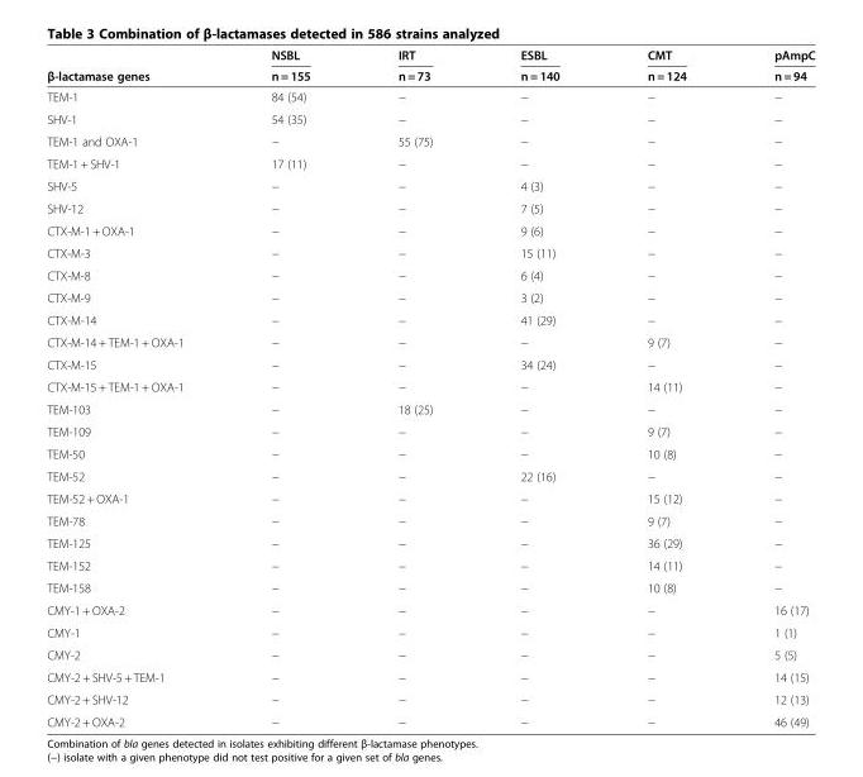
<table><thead><tr><td rowspan="2">β-lactamase genes</td><td rowspan="2">NSBL n = 155</td><td rowspan="2">IRT n = 73</td><td rowspan="2">ESBL n = 140</td><td rowspan="2">CMT n = 124</td><td rowspan="2">pAmpC n = 94</td></tr><tr></tr></thead><tbody><tr><td>TEM-1</td><td>84 (54)</td><td>−</td><td>−</td><td>−</td><td>−</td></tr><tr><td>SHV-1</td><td>54 (35)</td><td>−</td><td>−</td><td>−</td><td>−</td></tr><tr><td>TEM-1 and OXA-1</td><td>−</td><td>55 (75)</td><td>−</td><td>−</td><td>−</td></tr><tr><td>TEM-1 + SHV-1</td><td>17 (11)</td><td>−</td><td>−</td><td>−</td><td>−</td></tr><tr><td>SHV-5</td><td>−</td><td>−</td><td>4 (3)</td><td>−</td><td>−</td></tr><tr><td>SHV-12</td><td>−</td><td>−</td><td>7 (5)</td><td>−</td><td>−</td></tr><tr><td>CTX-M-1 + OXA-1</td><td>−</td><td>−</td><td>9 (6)</td><td>−</td><td>−</td></tr><tr><td>CTX-M-3</td><td>−</td><td>−</td><td>15 (11)</td><td>−</td><td>−</td></tr><tr><td>CTX-M-8</td><td>−</td><td>−</td><td>6 (4)</td><td>−</td><td>−</td></tr><tr><td>CTX-M-9</td><td>−</td><td>−</td><td>3 (2)</td><td>−</td><td>−</td></tr><tr><td>CTX-M-14</td><td>−</td><td>−</td><td>41 (29)</td><td>−</td><td>−</td></tr><tr><td>CTX-M-14 + TEM-1 + OXA-1</td><td>−</td><td>−</td><td>−</td><td>9 (7)</td><td>−</td></tr><tr><td>CTX-M-15</td><td>−</td><td>−</td><td>34 (24)</td><td>−</td><td>−</td></tr><tr><td>CTX-M-15 + TEM-1 + OXA-1</td><td>−</td><td>−</td><td>−</td><td>14 (11)</td><td>−</td></tr><tr><td>TEM-103</td><td>−</td><td>18 (25)</td><td>−</td><td>−</td><td>−</td></tr><tr><td>TEM-109</td><td>−</td><td>−</td><td>−</td><td>9 (7)</td><td>−</td></tr><tr><td>TEM-50</td><td>−</td><td>−</td><td>−</td><td>10 (8)</td><td>−</td></tr><tr><td>TEM-52</td><td>−</td><td>−</td><td>22 (16)</td><td>−</td><td>−</td></tr><tr><td>TEM-52 + OXA-1</td><td>−</td><td>−</td><td>−</td><td>15 (12)</td><td>−</td></tr><tr><td>TEM-78</td><td>−</td><td>−</td><td>−</td><td>9 (7)</td><td>−</td></tr><tr><td>TEM-125</td><td>−</td><td>−</td><td>−</td><td>36 (29)</td><td>−</td></tr><tr><td>TEM-152</td><td>−</td><td>−</td><td>−</td><td>14 (11)</td><td>−</td></tr><tr><td>TEM-158</td><td>−</td><td>−</td><td>−</td><td>10 (8)</td><td>−</td></tr><tr><td>CMY-1 + OXA-2</td><td>−</td><td>−</td><td>−</td><td>−</td><td>16 (17)</td></tr><tr><td>CMY-1</td><td>−</td><td>−</td><td>−</td><td>−</td><td>1 (1)</td></tr><tr><td>CMY-2</td><td>−</td><td>−</td><td>−</td><td>−</td><td>5 (5)</td></tr><tr><td>CMY-2 + SHV-5 + TEM-1</td><td>−</td><td>−</td><td>−</td><td>−</td><td>14 (15)</td></tr><tr><td>CMY-2 + SHV-12</td><td>−</td><td>−</td><td>−</td><td>−</td><td>12 (13)</td></tr><tr><td>CMY-2 + OXA-2</td><td>−</td><td>−</td><td>−</td><td>−</td><td>46 (49)</td></tr></tbody></table>